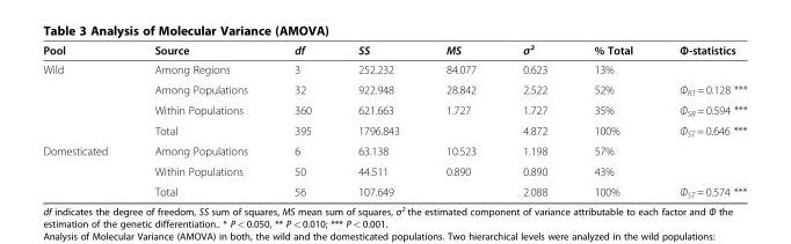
<table><thead><tr><td>Pool</td><td>Source</td><td>df</td><td>SS</td><td>MS</td><td>σ²</td><td>% Total</td><td>Φ-statistics</td></tr></thead><tbody><tr><td rowspan="4">Wild</td><td>Among Regions</td><td>3</td><td>252.232</td><td>84.077</td><td>0.623</td><td>13%</td><td></td></tr><tr><td>Among Populations</td><td>32</td><td>922.948</td><td>28.842</td><td>2.522</td><td>52%</td><td>Φ<sub>RT</sub> = 0.128 ***</td></tr><tr><td>Within Populations</td><td>360</td><td>621.663</td><td>1.727</td><td>1.727</td><td>35%</td><td>Φ<sub>SR</sub> = 0.594 ***</td></tr><tr><td>Total</td><td>395</td><td>1796.843</td><td></td><td>4.872</td><td>100%</td><td>Φ<sub>ST</sub> = 0.646 ***</td></tr><tr><td rowspan="3">Domesticated</td><td>Among Populations</td><td>6</td><td>63.138</td><td>10.523</td><td>1.198</td><td>57%</td><td></td></tr><tr><td>Within Populations</td><td>50</td><td>44.511</td><td>0.890</td><td>0.890</td><td>43%</td><td></td></tr><tr><td>Total</td><td>56</td><td>107.649</td><td></td><td>2.088</td><td>100%</td><td>Φ<sub>ST</sub> = 0.574 ***</td></tr></tbody></table>